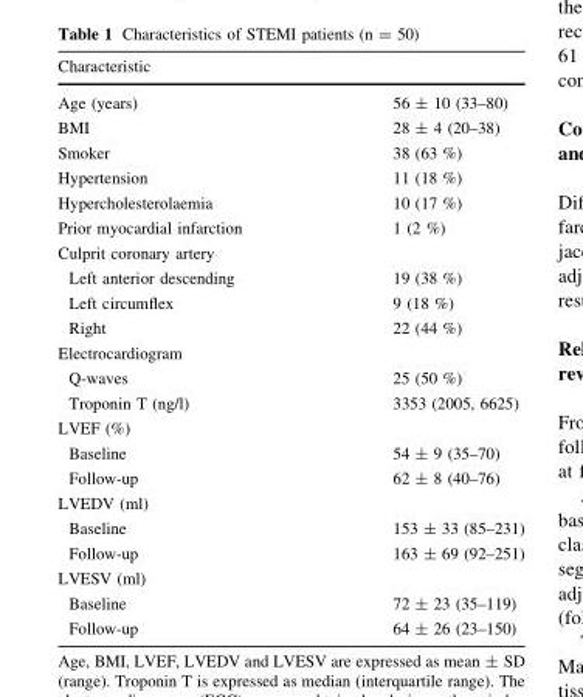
<table><thead><tr><td>Characteristic</td><td></td></tr></thead><tbody><tr><td>Age (years)</td><td>56 ± 10 (33–80)</td></tr><tr><td>BMI</td><td>28 ± 4 (20–38)</td></tr><tr><td>Smoker</td><td>38 (63 %)</td></tr><tr><td>Hypertension</td><td>11 (18 %)</td></tr><tr><td>Hypercholesterolaemia</td><td>10 (17 %)</td></tr><tr><td>Prior myocardial infarction</td><td>1 (2 %)</td></tr><tr><td colspan="2">Culprit coronary artery</td></tr><tr><td>Left anterior descending</td><td>19 (38 %)</td></tr><tr><td>Left circumflex</td><td>9 (18 %)</td></tr><tr><td>Right</td><td>22 (44 %)</td></tr><tr><td colspan="2">Electrocardiogram</td></tr><tr><td>Q-waves</td><td>25 (50 %)</td></tr><tr><td>Troponin T (ng/l)</td><td>3353 (2005, 6625)</td></tr><tr><td colspan="2">LVEF (%)</td></tr><tr><td>Baseline</td><td>54 ± 9 (35–70)</td></tr><tr><td>Follow-up</td><td>62 ± 8 (40–76)</td></tr><tr><td colspan="2">LVEDV (ml)</td></tr><tr><td>Baseline</td><td>153 ± 33 (85–231)</td></tr><tr><td>Follow-up</td><td>163 ± 69 (92–251)</td></tr><tr><td colspan="2">LVESV (ml)</td></tr><tr><td>Baseline</td><td>72 ± 23 (35–119)</td></tr><tr><td>Follow-up</td><td>64 ± 26 (23–150)</td></tr></tbody></table>